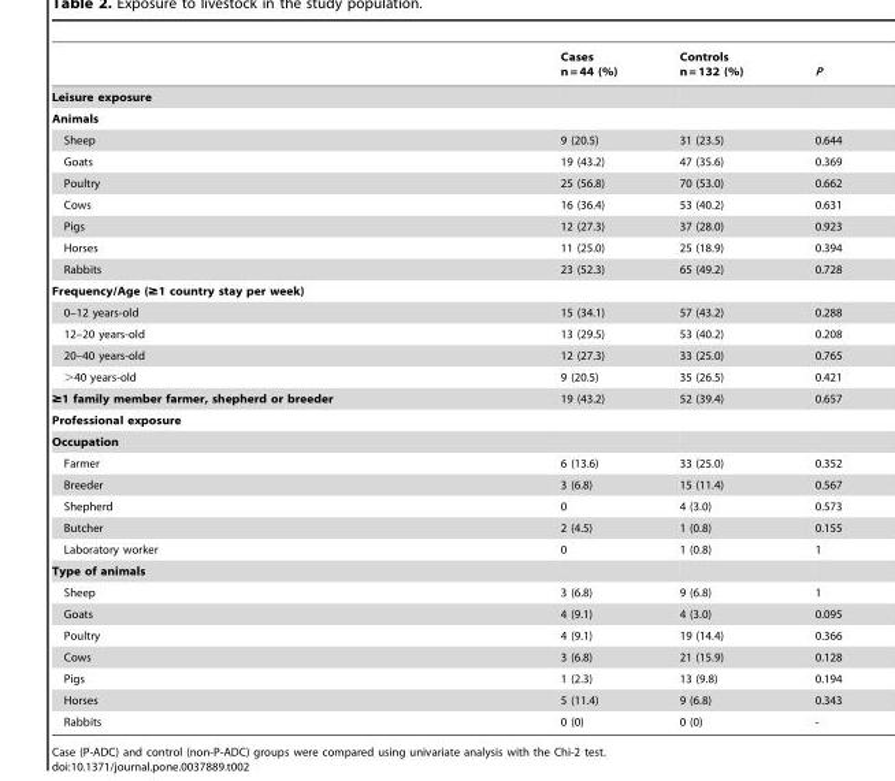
<table><thead><tr><td></td><td>Cases n = 44 (%)</td><td>Controls n = 132 (%)</td><td>P</td></tr></thead><tbody><tr><td colspan="4">Leisure exposure</td></tr><tr><td colspan="4">Animals</td></tr><tr><td>Sheep</td><td>9 (20.5)</td><td>31 (23.5)</td><td>0.644</td></tr><tr><td>Goats</td><td>19 (43.2)</td><td>47 (35.6)</td><td>0.369</td></tr><tr><td>Poultry</td><td>25 (56.8)</td><td>70 (53.0)</td><td>0.662</td></tr><tr><td>Cows</td><td>16 (36.4)</td><td>53 (40.2)</td><td>0.631</td></tr><tr><td>Pigs</td><td>12 (27.3)</td><td>37 (28.0)</td><td>0.923</td></tr><tr><td>Horses</td><td>11 (25.0)</td><td>25 (18.9)</td><td>0.394</td></tr><tr><td>Rabbits</td><td>23 (52.3)</td><td>65 (49.2)</td><td>0.728</td></tr><tr><td colspan="4">Frequency/Age (≥1 country stay per week)</td></tr><tr><td>0–12 years-old</td><td>15 (34.1)</td><td>57 (43.2)</td><td>0.288</td></tr><tr><td>12–20 years-old</td><td>13 (29.5)</td><td>53 (40.2)</td><td>0.208</td></tr><tr><td>20–40 years-old</td><td>12 (27.3)</td><td>33 (25.0)</td><td>0.765</td></tr><tr><td>&gt;40 years-old</td><td>9 (20.5)</td><td>35 (26.5)</td><td>0.421</td></tr><tr><td>≥1 family member farmer, shepherd or breeder</td><td>19 (43.2)</td><td>52 (39.4)</td><td>0.657</td></tr><tr><td colspan="4">Professional exposure</td></tr><tr><td colspan="4">Occupation</td></tr><tr><td>Farmer</td><td>6 (13.6)</td><td>33 (25.0)</td><td>0.352</td></tr><tr><td>Breeder</td><td>3 (6.8)</td><td>15 (11.4)</td><td>0.567</td></tr><tr><td>Shepherd</td><td>0</td><td>4 (3.0)</td><td>0.573</td></tr><tr><td>Butcher</td><td>2 (4.5)</td><td>1 (0.8)</td><td>0.155</td></tr><tr><td>Laboratory worker</td><td>0</td><td>1 (0.8)</td><td>1</td></tr><tr><td colspan="4">Type of animals</td></tr><tr><td>Sheep</td><td>3 (6.8)</td><td>9 (6.8)</td><td>1</td></tr><tr><td>Goats</td><td>4 (9.1)</td><td>4 (3.0)</td><td>0.095</td></tr><tr><td>Poultry</td><td>4 (9.1)</td><td>19 (14.4)</td><td>0.366</td></tr><tr><td>Cows</td><td>3 (6.8)</td><td>21 (15.9)</td><td>0.128</td></tr><tr><td>Pigs</td><td>1 (2.3)</td><td>13 (9.8)</td><td>0.194</td></tr><tr><td>Horses</td><td>5 (11.4)</td><td>9 (6.8)</td><td>0.343</td></tr><tr><td>Rabbits</td><td>0 (0)</td><td>0 (0)</td><td>-</td></tr></tbody></table>